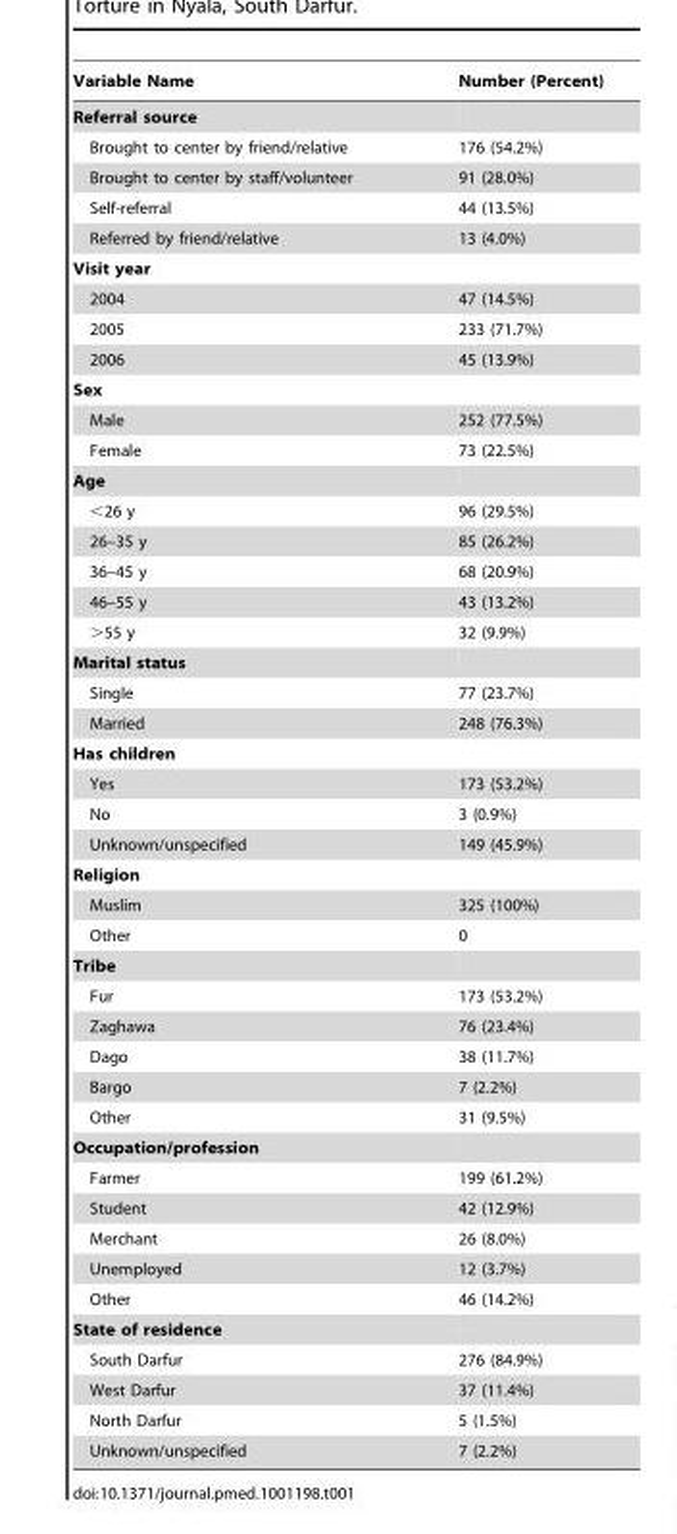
<table><thead><tr><td>Variable Name</td><td>Number (Percent)</td></tr></thead><tbody><tr><td colspan="2">Referral source</td></tr><tr><td>Brought to center by friend/relative</td><td>176 (54.2%)</td></tr><tr><td>Brought to center by staff/volunteer</td><td>91 (28.0%)</td></tr><tr><td>Self-referral</td><td>44 (13.5%)</td></tr><tr><td>Referred by friend/relative</td><td>13 (4.0%)</td></tr><tr><td colspan="2">Visit year</td></tr><tr><td>2004</td><td>47 (14.5%)</td></tr><tr><td>2005</td><td>233 (71.7%)</td></tr><tr><td>2006</td><td>45 (13.9%)</td></tr><tr><td colspan="2">Sex</td></tr><tr><td>Male</td><td>252 (77.5%)</td></tr><tr><td>Female</td><td>73 (22.5%)</td></tr><tr><td colspan="2">Age</td></tr><tr><td>&lt;26 y</td><td>96 (29.5%)</td></tr><tr><td>26–35 y</td><td>85 (26.2%)</td></tr><tr><td>36–45 y</td><td>68 (20.9%)</td></tr><tr><td>46–55 y</td><td>43 (13.2%)</td></tr><tr><td>&gt;55 y</td><td>32 (9.9%)</td></tr><tr><td colspan="2">Marital status</td></tr><tr><td>Single</td><td>77 (23.7%)</td></tr><tr><td>Married</td><td>248 (76.3%)</td></tr><tr><td colspan="2">Has children</td></tr><tr><td>Yes</td><td>173 (53.2%)</td></tr><tr><td>No</td><td>3 (0.9%)</td></tr><tr><td>Unknown/unspecified</td><td>149 (45.9%)</td></tr><tr><td colspan="2">Religion</td></tr><tr><td>Muslim</td><td>325 (100%)</td></tr><tr><td>Other</td><td>0</td></tr><tr><td colspan="2">Tribe</td></tr><tr><td>Fur</td><td>173 (53.2%)</td></tr><tr><td>Zaghawa</td><td>76 (23.4%)</td></tr><tr><td>Dago</td><td>38 (11.7%)</td></tr><tr><td>Bargo</td><td>7 (2.2%)</td></tr><tr><td>Other</td><td>31 (9.5%)</td></tr><tr><td colspan="2">Occupation/profession</td></tr><tr><td>Farmer</td><td>199 (61.2%)</td></tr><tr><td>Student</td><td>42 (12.9%)</td></tr><tr><td>Merchant</td><td>26 (8.0%)</td></tr><tr><td>Unemployed</td><td>12 (3.7%)</td></tr><tr><td>Other</td><td>46 (14.2%)</td></tr><tr><td colspan="2">State of residence</td></tr><tr><td>South Darfur</td><td>276 (84.9%)</td></tr><tr><td>West Darfur</td><td>37 (11.4%)</td></tr><tr><td>North Darfur</td><td>5 (1.5%)</td></tr><tr><td>Unknown/unspecified</td><td>7 (2.2%)</td></tr></tbody></table>